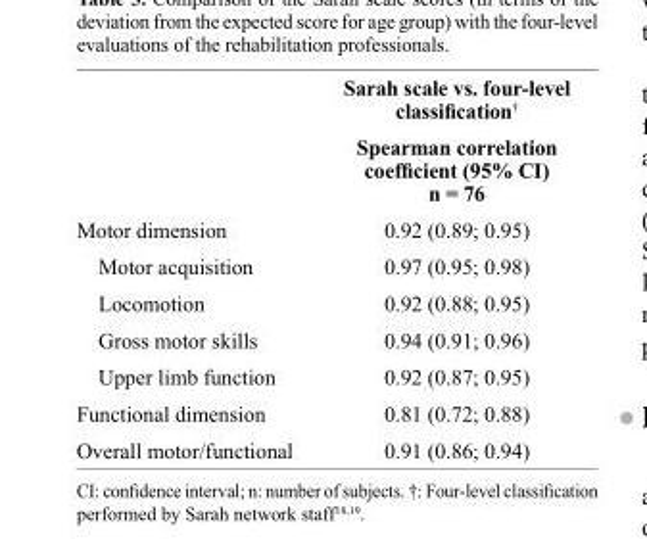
<table><thead><tr><td rowspan="2"></td><td rowspan="2">Sarah scale vs. four-level classification<sup>†</sup> Spearman correlation coefficient (95% CI) n = 76</td></tr><tr></tr></thead><tbody><tr><td>Motor dimension</td><td>0.92 (0.89; 0.95)</td></tr><tr><td>Motor acquisition</td><td>0.97 (0.95; 0.98)</td></tr><tr><td>Locomotion</td><td>0.92 (0.88; 0.95)</td></tr><tr><td>Gross motor skills</td><td>0.94 (0.91; 0.96)</td></tr><tr><td>Upper limb function</td><td>0.92 (0.87; 0.95)</td></tr><tr><td>Functional dimension</td><td>0.81 (0.72; 0.88)</td></tr><tr><td>Overall motor/functional</td><td>0.91 (0.86; 0.94)</td></tr></tbody></table>